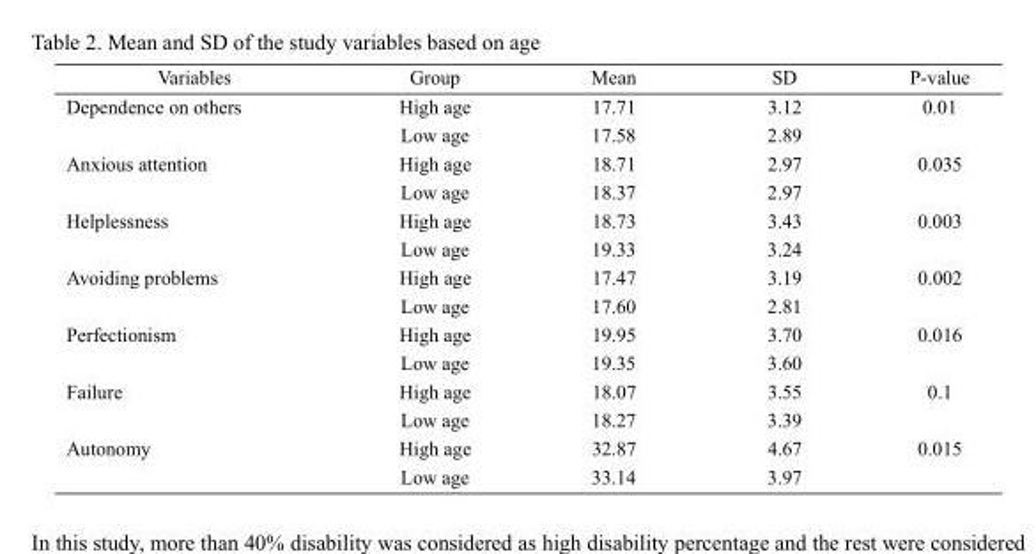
<table><thead><tr><td>Variables</td><td>Group</td><td>Mean</td><td>SD</td><td>P-value</td></tr></thead><tbody><tr><td rowspan="2">Dependence on others</td><td>High age</td><td>17.71</td><td>3.12</td><td rowspan="2">0.01</td></tr><tr><td>Low age</td><td>17.58</td><td>2.89</td></tr><tr><td rowspan="2">Anxious attention</td><td>High age</td><td>18.71</td><td>2.97</td><td rowspan="2">0.035</td></tr><tr><td>Low age</td><td>18.37</td><td>2.97</td></tr><tr><td rowspan="2">Helplessness</td><td>High age</td><td>18.73</td><td>3.43</td><td rowspan="2">0.003</td></tr><tr><td>Low age</td><td>19.33</td><td>3.24</td></tr><tr><td rowspan="2">Avoiding problems</td><td>High age</td><td>17.47</td><td>3.19</td><td rowspan="2">0.002</td></tr><tr><td>Low age</td><td>17.60</td><td>2.81</td></tr><tr><td rowspan="2">Perfectionism</td><td>High age</td><td>19.95</td><td>3.70</td><td rowspan="2">0.016</td></tr><tr><td>Low age</td><td>19.35</td><td>3.60</td></tr><tr><td rowspan="2">Failure</td><td>High age</td><td>18.07</td><td>3.55</td><td rowspan="2">0.1</td></tr><tr><td>Low age</td><td>18.27</td><td>3.39</td></tr><tr><td rowspan="2">Autonomy</td><td>High age</td><td>32.87</td><td>4.67</td><td rowspan="2">0.015</td></tr><tr><td>Low age</td><td>33.14</td><td>3.97</td></tr></tbody></table>